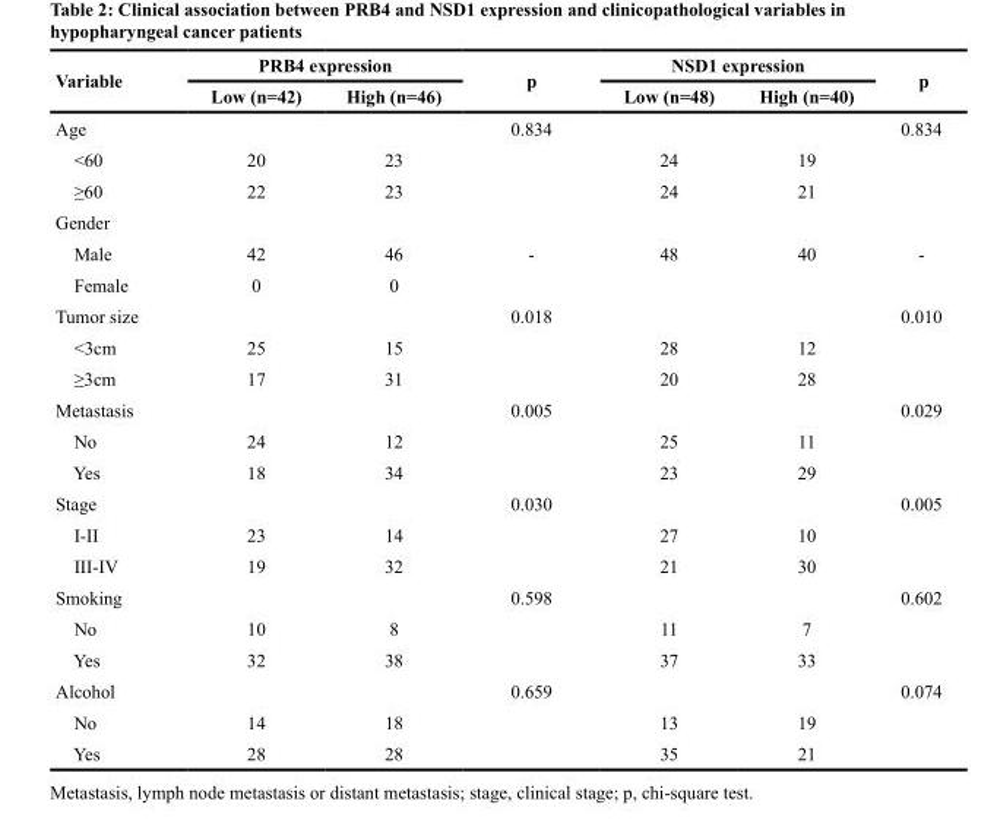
<table><thead><tr><td rowspan="2">Variable</td><td colspan="2">PRB4 expression</td><td rowspan="2">p</td><td colspan="2">NSD1 expression</td><td rowspan="2">p</td></tr><tr><td>Low (n=42)</td><td>High (n=46)</td><td>Low (n=48)</td><td>High (n=40)</td></tr></thead><tbody><tr><td>Age</td><td></td><td></td><td>0.834</td><td></td><td></td><td>0.834</td></tr><tr><td>&lt;60</td><td>20</td><td>23</td><td></td><td>24</td><td>19</td><td></td></tr><tr><td>≥60</td><td>22</td><td>23</td><td></td><td>24</td><td>21</td><td></td></tr><tr><td colspan="7">Gender</td></tr><tr><td>Male</td><td>42</td><td>46</td><td>-</td><td>48</td><td>40</td><td>-</td></tr><tr><td>Female</td><td>0</td><td>0</td><td></td><td></td><td></td><td></td></tr><tr><td>Tumor size</td><td></td><td></td><td>0.018</td><td></td><td></td><td>0.010</td></tr><tr><td>&lt;3cm</td><td>25</td><td>15</td><td></td><td>28</td><td>12</td><td></td></tr><tr><td>≥3cm</td><td>17</td><td>31</td><td></td><td>20</td><td>28</td><td></td></tr><tr><td>Metastasis</td><td></td><td></td><td>0.005</td><td></td><td></td><td>0.029</td></tr><tr><td>No</td><td>24</td><td>12</td><td></td><td>25</td><td>11</td><td></td></tr><tr><td>Yes</td><td>18</td><td>34</td><td></td><td>23</td><td>29</td><td></td></tr><tr><td>Stage</td><td></td><td></td><td>0.030</td><td></td><td></td><td>0.005</td></tr><tr><td>I-II</td><td>23</td><td>14</td><td></td><td>27</td><td>10</td><td></td></tr><tr><td>III-IV</td><td>19</td><td>32</td><td></td><td>21</td><td>30</td><td></td></tr><tr><td>Smoking</td><td></td><td></td><td>0.598</td><td></td><td></td><td>0.602</td></tr><tr><td>No</td><td>10</td><td>8</td><td></td><td>11</td><td>7</td><td></td></tr><tr><td>Yes</td><td>32</td><td>38</td><td></td><td>37</td><td>33</td><td></td></tr><tr><td>Alcohol</td><td></td><td></td><td>0.659</td><td></td><td></td><td>0.074</td></tr><tr><td>No</td><td>14</td><td>18</td><td></td><td>13</td><td>19</td><td></td></tr><tr><td>Yes</td><td>28</td><td>28</td><td></td><td>35</td><td>21</td><td></td></tr></tbody></table>